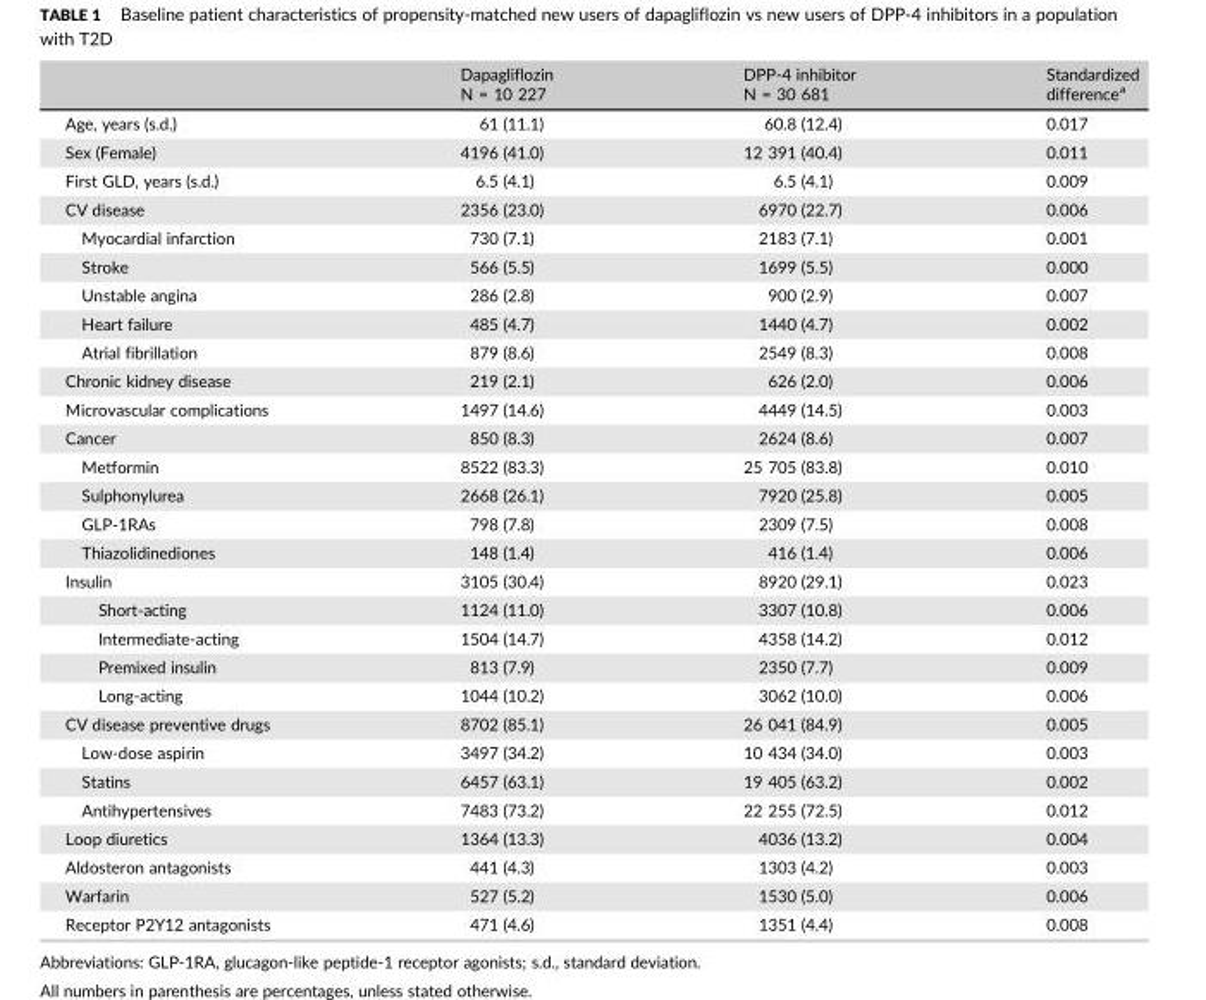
<table><thead><tr><td></td><td>Dapagliflozin N = 10 227</td><td>DPP-4 inhibitor N = 30 681</td><td>Standardized difference<sup>a</sup></td></tr></thead><tbody><tr><td>Age, years (s.d.)</td><td>61 (11.1)</td><td>60.8 (12.4)</td><td>0.017</td></tr><tr><td>Sex (Female)</td><td>4196 (41.0)</td><td>12 391 (40.4)</td><td>0.011</td></tr><tr><td>First GLD, years (s.d.)</td><td>6.5 (4.1)</td><td>6.5 (4.1)</td><td>0.009</td></tr><tr><td>CV disease</td><td>2356 (23.0)</td><td>6970 (22.7)</td><td>0.006</td></tr><tr><td>Myocardial infarction</td><td>730 (7.1)</td><td>2183 (7.1)</td><td>0.001</td></tr><tr><td>Stroke</td><td>566 (5.5)</td><td>1699 (5.5)</td><td>0.000</td></tr><tr><td>Unstable angina</td><td>286 (2.8)</td><td>900 (2.9)</td><td>0.007</td></tr><tr><td>Heart failure</td><td>485 (4.7)</td><td>1440 (4.7)</td><td>0.002</td></tr><tr><td>Atrial fibrillation</td><td>879 (8.6)</td><td>2549 (8.3)</td><td>0.008</td></tr><tr><td>Chronic kidney disease</td><td>219 (2.1)</td><td>626 (2.0)</td><td>0.006</td></tr><tr><td>Microvascular complications</td><td>1497 (14.6)</td><td>4449 (14.5)</td><td>0.003</td></tr><tr><td>Cancer</td><td>850 (8.3)</td><td>2624 (8.6)</td><td>0.007</td></tr><tr><td>Metformin</td><td>8522 (83.3)</td><td>25 705 (83.8)</td><td>0.010</td></tr><tr><td>Sulphonylurea</td><td>2668 (26.1)</td><td>7920 (25.8)</td><td>0.005</td></tr><tr><td>GLP-1RAs</td><td>798 (7.8)</td><td>2309 (7.5)</td><td>0.008</td></tr><tr><td>Thiazolidinediones</td><td>148 (1.4)</td><td>416 (1.4)</td><td>0.006</td></tr><tr><td>Insulin</td><td>3105 (30.4)</td><td>8920 (29.1)</td><td>0.023</td></tr><tr><td>Short-acting</td><td>1124 (11.0)</td><td>3307 (10.8)</td><td>0.006</td></tr><tr><td>Intermediate-acting</td><td>1504 (14.7)</td><td>4358 (14.2)</td><td>0.012</td></tr><tr><td>Premixed insulin</td><td>813 (7.9)</td><td>2350 (7.7)</td><td>0.009</td></tr><tr><td>Long-acting</td><td>1044 (10.2)</td><td>3062 (10.0)</td><td>0.006</td></tr><tr><td>CV disease preventive drugs</td><td>8702 (85.1)</td><td>26 041 (84.9)</td><td>0.005</td></tr><tr><td>Low-dose aspirin</td><td>3497 (34.2)</td><td>10 434 (34.0)</td><td>0.003</td></tr><tr><td>Statins</td><td>6457 (63.1)</td><td>19 405 (63.2)</td><td>0.002</td></tr><tr><td>Antihypertensives</td><td>7483 (73.2)</td><td>22 255 (72.5)</td><td>0.012</td></tr><tr><td>Loop diuretics</td><td>1364 (13.3)</td><td>4036 (13.2)</td><td>0.004</td></tr><tr><td>Aldosteron antagonists</td><td>441 (4.3)</td><td>1303 (4.2)</td><td>0.003</td></tr><tr><td>Warfarin</td><td>527 (5.2)</td><td>1530 (5.0)</td><td>0.006</td></tr><tr><td>Receptor P2Y12 antagonists</td><td>471 (4.6)</td><td>1351 (4.4)</td><td>0.008</td></tr></tbody></table>